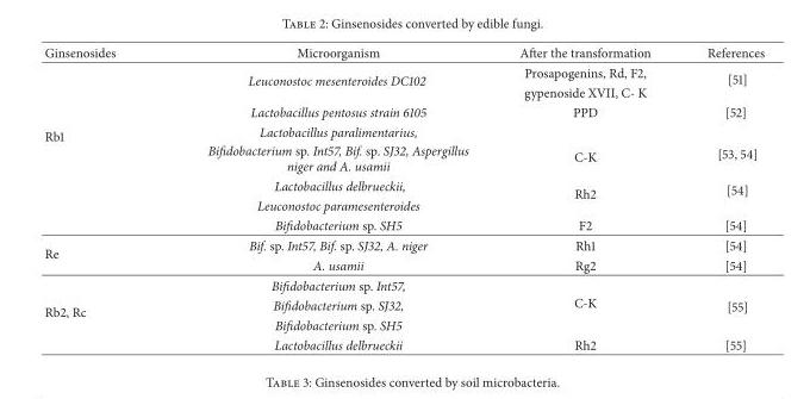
<table><thead><tr><td>Ginsenosides</td><td>Microorganism</td><td>After the transformation</td><td>References</td></tr></thead><tbody><tr><td rowspan="8">Rb1</td><td rowspan="2">Leuconostoc mesenteroides DC102</td><td>Prosapogenins, Rd, F2,</td><td rowspan="2">[51]</td></tr><tr><td>gypenoside XVII, C- K</td></tr><tr><td>Lactobacillus pentosus strain 6105</td><td>PPD</td><td>[52]</td></tr><tr><td>Lactobacillus paralimentarius,</td><td rowspan="2">C-K</td><td rowspan="2">[53, 54]</td></tr><tr><td>Bifidobacterium sp. Int57, Bif. sp. SJ32, Aspergillus niger and A. usamii</td></tr><tr><td>Lactobacillus delbrueckii,</td><td rowspan="2">Rh2</td><td rowspan="2">[54]</td></tr><tr><td>Leuconostoc paramesenteroides</td></tr><tr><td>Bifidobacterium sp. SH5</td><td>F2</td><td>[54]</td></tr><tr><td rowspan="2">Re</td><td>Bif. sp. Int57, Bif. sp. SJ32, A. niger</td><td>Rh1</td><td>[54]</td></tr><tr><td>A. usamii</td><td>Rg2</td><td>[54]</td></tr><tr><td rowspan="4">Rb2, Rc</td><td>Bifidobacterium sp. Int57,</td><td rowspan="3">C-K</td><td rowspan="3">[55]</td></tr><tr><td>Bifidobacterium sp. SJ32,</td></tr><tr><td>Bifidobacterium sp. SH5</td></tr><tr><td>Lactobacillus delbrueckii</td><td>Rh2</td><td>[55]</td></tr></tbody></table>